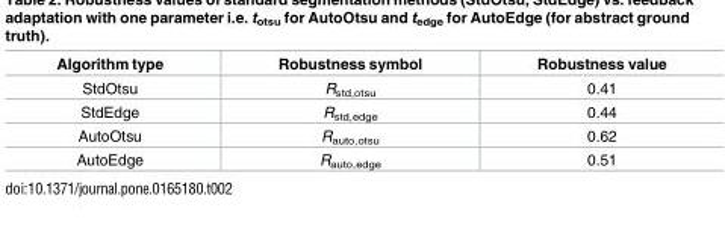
<table><thead><tr><td>Algorithm type</td><td>Robustness symbol</td><td>Robustness value</td></tr></thead><tbody><tr><td>StdOtsu</td><td>R<sub>std,otsu</sub></td><td>0.41</td></tr><tr><td>StdEdge</td><td>R<sub>std,edge</sub></td><td>0.44</td></tr><tr><td>AutoOtsu</td><td>R<sub>auto,otsu</sub></td><td>0.62</td></tr><tr><td>AutoEdge</td><td>R<sub>auto,edge</sub></td><td>0.51</td></tr></tbody></table>